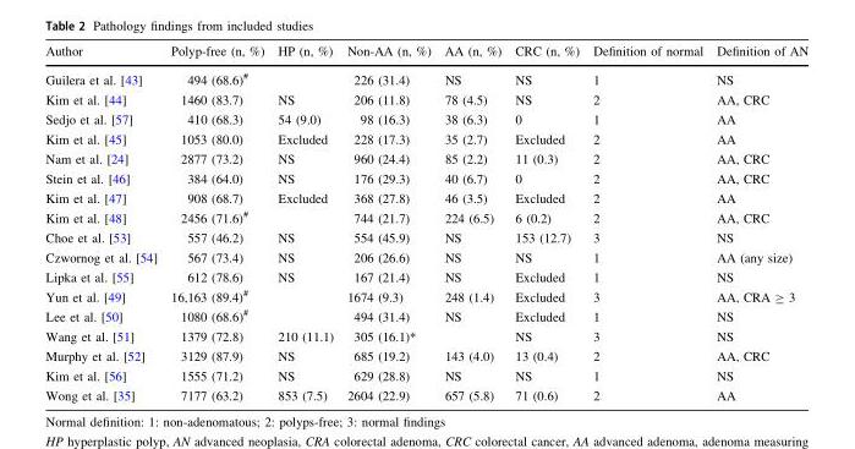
<table><thead><tr><td>Author</td><td>Polyp-free (n, %)</td><td>HP (n, %)</td><td>Non-AA (n, %)</td><td>AA (n, %)</td><td>CRC (n, %)</td><td>Definition of normal</td><td>Definition of AN</td></tr></thead><tbody><tr><td>Guilera et al. [43]</td><td>494 (68.6)<sup>#</sup></td><td></td><td>226 (31.4)</td><td>NS</td><td>NS</td><td>1</td><td>NS</td></tr><tr><td>Kim et al. [44]</td><td>1460 (83.7)</td><td>NS</td><td>206 (11.8)</td><td>78 (4.5)</td><td>NS</td><td>2</td><td>AA, CRC</td></tr><tr><td>Sedjo et al. [57]</td><td>410 (68.3)</td><td>54 (9.0)</td><td>98 (16.3)</td><td>38 (6.3)</td><td>0</td><td>1</td><td>AA</td></tr><tr><td>Kim et al. [45]</td><td>1053 (80.0)</td><td>Excluded</td><td>228 (17.3)</td><td>35 (2.7)</td><td>Excluded</td><td>2</td><td>AA</td></tr><tr><td>Nam et al. [24]</td><td>2877 (73.2)</td><td>NS</td><td>960 (24.4)</td><td>85 (2.2)</td><td>11 (0.3)</td><td>2</td><td>AA, CRC</td></tr><tr><td>Stein et al. [46]</td><td>384 (64.0)</td><td>NS</td><td>176 (29.3)</td><td>40 (6.7)</td><td>0</td><td>2</td><td>AA, CRC</td></tr><tr><td>Kim et al. [47]</td><td>908 (68.7)</td><td>Excluded</td><td>368 (27.8)</td><td>46 (3.5)</td><td>Excluded</td><td>2</td><td>AA</td></tr><tr><td>Kim et al. [48]</td><td>2456 (71.6)<sup>#</sup></td><td></td><td>744 (21.7)</td><td>224 (6.5)</td><td>6 (0.2)</td><td>2</td><td>AA, CRC</td></tr><tr><td>Choe et al. [53]</td><td>557 (46.2)</td><td>NS</td><td>554 (45.9)</td><td>NS</td><td>153 (12.7)</td><td>3</td><td>NS</td></tr><tr><td>Czwornog et al. [54]</td><td>567 (73.4)</td><td>NS</td><td>206 (26.6)</td><td>NS</td><td>NS</td><td>1</td><td>AA (any size)</td></tr><tr><td>Lipka et al. [55]</td><td>612 (78.6)</td><td>NS</td><td>167 (21.4)</td><td>NS</td><td>Excluded</td><td>1</td><td>NS</td></tr><tr><td>Yun et al. [49]</td><td>16,163 (89.4)<sup>#</sup></td><td></td><td>1674 (9.3)</td><td>248 (1.4)</td><td>Excluded</td><td>3</td><td>AA, CRA ≥ 3</td></tr><tr><td>Lee et al. [50]</td><td>1080 (68.6)<sup>#</sup></td><td></td><td>494 (31.4)</td><td>NS</td><td>Excluded</td><td>1</td><td>NS</td></tr><tr><td>Wang et al. [51]</td><td>1379 (72.8)</td><td>210 (11.1)</td><td>305 (16.1)*</td><td></td><td>NS</td><td>3</td><td>NS</td></tr><tr><td>Murphy et al. [52]</td><td>3129 (87.9)</td><td>NS</td><td>685 (19.2)</td><td>143 (4.0)</td><td>13 (0.4)</td><td>2</td><td>AA, CRC</td></tr><tr><td>Kim et al. [56]</td><td>1555 (71.2)</td><td>NS</td><td>629 (28.8)</td><td>NS</td><td>NS</td><td>1</td><td>NS</td></tr><tr><td>Wong et al. [35]</td><td>7177 (63.2)</td><td>853 (7.5)</td><td>2604 (22.9)</td><td>657 (5.8)</td><td>71 (0.6)</td><td>2</td><td>AA</td></tr></tbody></table>